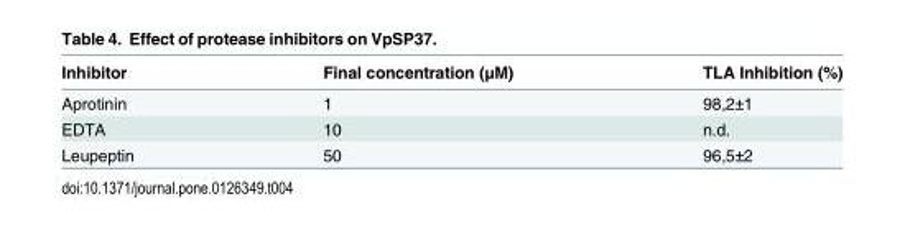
<table><thead><tr><td>Inhibitor</td><td>Final concentration (μM)</td><td>TLA Inhibition (%)</td></tr></thead><tbody><tr><td>Aprotinin</td><td>1</td><td>98,2±1</td></tr><tr><td>EDTA</td><td>10</td><td>n.d.</td></tr><tr><td>Leupeptin</td><td>50</td><td>96,5±2</td></tr></tbody></table>